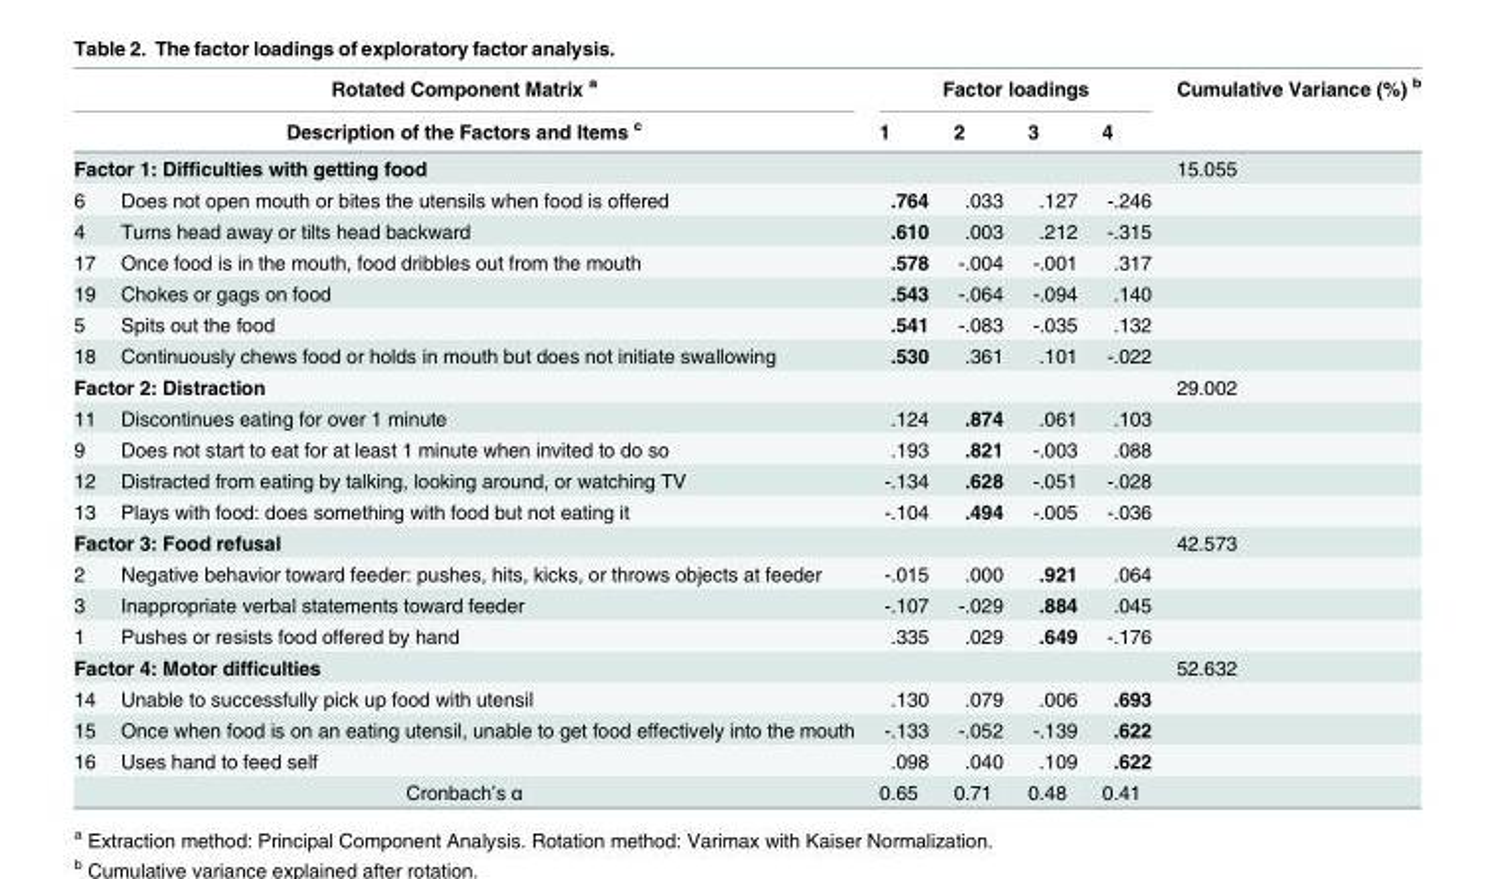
<table><thead><tr><td rowspan="2" colspan="2">Rotated Component Matrix <sup>a</sup> Description of the Factors and Items <sup>c</sup></td><td colspan="4">Factor loadings</td><td rowspan="4">Cumulative Variance (%) <sup>b</sup> 15.055</td></tr><tr><td>1</td><td>2</td><td>3</td><td>4</td></tr><tr><td colspan="6">Factor 1: Difficulties with getting food</td></tr><tr><td>6</td><td>Does not open mouth or bites the utensils when food is offered</td><td>.764</td><td>.033</td><td>.127</td><td>-.246</td></tr></thead><tbody><tr><td>4</td><td>Turns head away or tilts head backward</td><td>.610</td><td>.003</td><td>.212</td><td>-.315</td><td></td></tr><tr><td>17</td><td>Once food is in the mouth, food dribbles out from the mouth</td><td>.578</td><td>-.004</td><td>-.001</td><td>.317</td><td></td></tr><tr><td>19</td><td>Chokes or gags on food</td><td>.543</td><td>-.064</td><td>-.094</td><td>.140</td><td></td></tr><tr><td>5</td><td>Spits out the food</td><td>.541</td><td>-.083</td><td>-.035</td><td>.132</td><td></td></tr><tr><td>18</td><td>Continuously chews food or holds in mouth but does not initiate swallowing</td><td>.530</td><td>.361</td><td>.101</td><td>-.022</td><td></td></tr><tr><td colspan="6">Factor 2: Distraction</td><td>29.002</td></tr><tr><td>11</td><td>Discontinues eating for over 1 minute</td><td>.124</td><td>.874</td><td>.061</td><td>.103</td><td></td></tr><tr><td>9</td><td>Does not start to eat for at least 1 minute when invited to do so</td><td>.193</td><td>.821</td><td>-.003</td><td>.088</td><td></td></tr><tr><td>12</td><td>Distracted from eating by talking, looking around, or watching TV</td><td>-.134</td><td>.628</td><td>-.051</td><td>-.028</td><td></td></tr><tr><td>13</td><td>Plays with food: does something with food but not eating it</td><td>-.104</td><td>.494</td><td>-.005</td><td>-.036</td><td></td></tr><tr><td colspan="6">Factor 3: Food refusal</td><td>42.573</td></tr><tr><td>2</td><td>Negative behavior toward feeder: pushes, hits, kicks, or throws objects at feeder</td><td>-.015</td><td>.000</td><td>.921</td><td>.064</td><td></td></tr><tr><td>3</td><td>Inappropriate verbal statements toward feeder</td><td>-.107</td><td>-.029</td><td>.884</td><td>.045</td><td></td></tr><tr><td>1</td><td>Pushes or resists food offered by hand</td><td>.335</td><td>.029</td><td>.649</td><td>-.176</td><td></td></tr><tr><td colspan="6">Factor 4: Motor difficulties</td><td>52.632</td></tr><tr><td>14</td><td>Unable to successfully pick up food with utensil</td><td>.130</td><td>.079</td><td>.006</td><td>.693</td><td></td></tr><tr><td>15</td><td>Once when food is on an eating utensil, unable to get food effectively into the mouth</td><td>-.133</td><td>-.052</td><td>-.139</td><td>.622</td><td></td></tr><tr><td>16</td><td>Uses hand to feed self</td><td>.098</td><td>.040</td><td>.109</td><td>.622</td><td></td></tr><tr><td colspan="2">Cronbach’s α</td><td>0.65</td><td>0.71</td><td>0.48</td><td>0.41</td><td></td></tr></tbody></table>